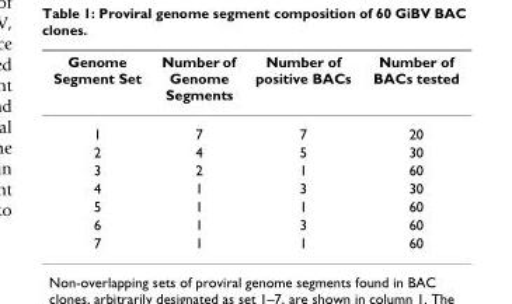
<table><thead><tr><td>Genome Segment Set</td><td>Number of Genome Segments</td><td>Number of positive BACs</td><td>Number of BACs tested</td></tr></thead><tbody><tr><td>1</td><td>7</td><td>7</td><td>20</td></tr><tr><td>2</td><td>4</td><td>5</td><td>30</td></tr><tr><td>3</td><td>2</td><td>1</td><td>60</td></tr><tr><td>4</td><td>1</td><td>3</td><td>30</td></tr><tr><td>5</td><td>1</td><td>1</td><td>60</td></tr><tr><td>6</td><td>1</td><td>3</td><td>60</td></tr><tr><td>7</td><td>1</td><td>1</td><td>60</td></tr></tbody></table>